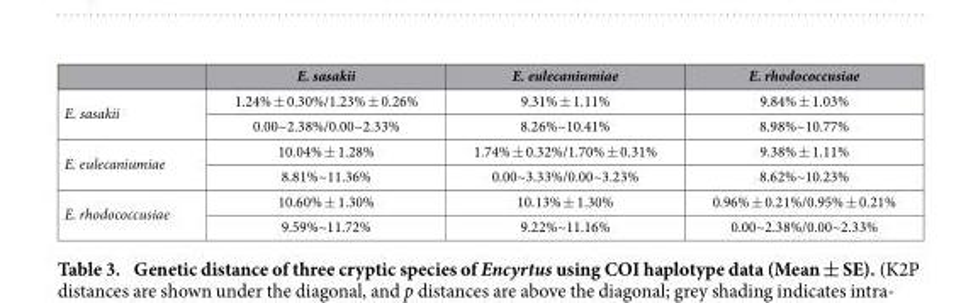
<table><thead><tr><td></td><td>E. sasakii</td><td>E. eulecaniumiae</td><td>E. rhodococcusiae</td></tr></thead><tbody><tr><td rowspan="2">E. sasakii</td><td>1.24% ± 0.30%/1.23% ± 0.26%</td><td>9.31% ± 1.11%</td><td>9.84% ± 1.03%</td></tr><tr><td>0.00~2.38%/0.00~2.33%</td><td>8.26%~10.41%</td><td>8.98%~10.77%</td></tr><tr><td rowspan="2">E. eulecaniumiae</td><td>10.04% ± 1.28%</td><td>1.74% ± 0.32%/1.70% ± 0.31%</td><td>9.38% ± 1.11%</td></tr><tr><td>8.81%~11.36%</td><td>0.00~3.33%/0.00~3.23%</td><td>8.62%~10.23%</td></tr><tr><td rowspan="2">E. rhodococcusiae</td><td>10.60% ± 1.30%</td><td>10.13% ± 1.30%</td><td>0.96% ± 0.21%/0.95% ± 0.21%</td></tr><tr><td>9.59%~11.72%</td><td>9.22%~11.16%</td><td>0.00~2.38%/0.00~2.33%</td></tr></tbody></table>